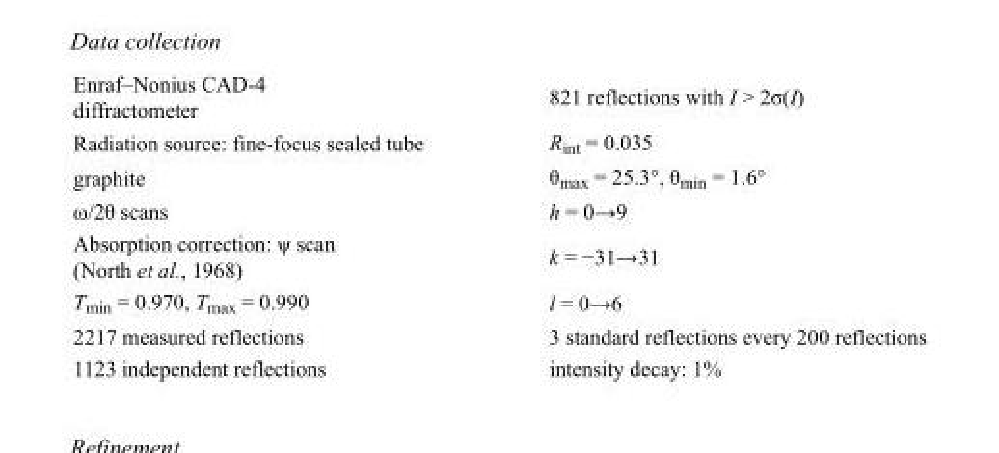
<table><tbody><tr><td>Enraf–Nonius CAD-4 diffractometer</td><td>821 reflections with I &gt; 2σ(I)</td></tr><tr><td>Radiation source: fine-focus sealed tube</td><td>R<sub>int</sub> = 0.035</td></tr><tr><td>graphite</td><td>θ<sub>max</sub> = 25.3°, θ<sub>min</sub> = 1.6°</td></tr><tr><td>ω/2θ scans</td><td>h = 0→9</td></tr><tr><td>Absorption correction: ψ scan (North et al., 1968)</td><td>k = −31→31</td></tr><tr><td>T<sub>min</sub> = 0.970, T<sub>max</sub> = 0.990</td><td>l = 0→6</td></tr><tr><td>2217 measured reflections</td><td>3 standard reflections every 200 reflections</td></tr><tr><td>1123 independent reflections</td><td>intensity decay: 1%</td></tr></tbody></table>